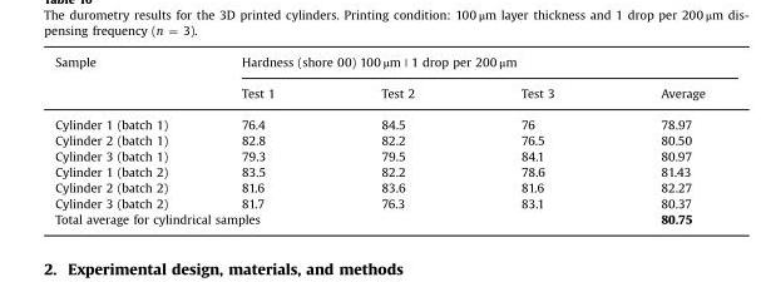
<table><thead><tr><td rowspan="2">Sample</td><td colspan="4">Hardness (shore 00) 100 μm | 1 drop per 200 μm</td></tr><tr><td>Test 1</td><td>Test 2</td><td>Test 3</td><td>Average</td></tr></thead><tbody><tr><td>Cylinder 1 (batch 1)</td><td>76.4</td><td>84.5</td><td>76</td><td>78.97</td></tr><tr><td>Cylinder 2 (batch 1)</td><td>82.8</td><td>82.2</td><td>76.5</td><td>80.50</td></tr><tr><td>Cylinder 3 (batch 1)</td><td>79.3</td><td>79.5</td><td>84.1</td><td>80.97</td></tr><tr><td>Cylinder 1 (batch 2)</td><td>83.5</td><td>82.2</td><td>78.6</td><td>81.43</td></tr><tr><td>Cylinder 2 (batch 2)</td><td>81.6</td><td>83.6</td><td>81.6</td><td>82.27</td></tr><tr><td>Cylinder 3 (batch 2)</td><td>81.7</td><td>76.3</td><td>83.1</td><td>80.37</td></tr><tr><td colspan="4">Total average for cylindrical samples</td><td>80.75</td></tr></tbody></table>